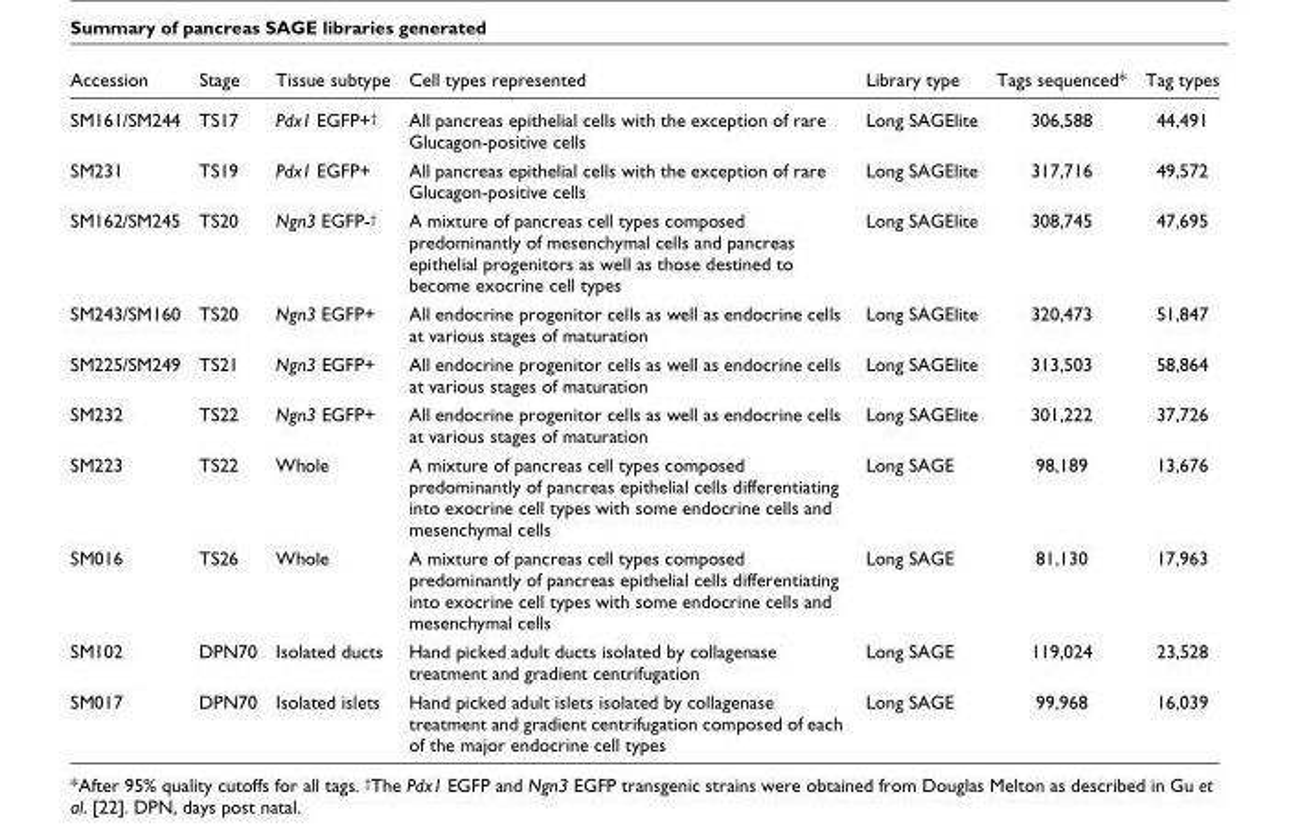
<table><thead><tr><td>Accession</td><td>Stage</td><td>Tissue subtype</td><td>Cell types represented</td><td>Library type</td><td>Tags sequenced*</td><td>Tag types</td></tr></thead><tbody><tr><td>SM161/SM244</td><td>TS17</td><td>Pdx1 EGFP+<sup>†</sup></td><td>All pancreas epithelial cells with the exception of rare Glucagon-positive cells</td><td>Long SAGElite</td><td>306,588</td><td>44,491</td></tr><tr><td>SM231</td><td>TS19</td><td>Pdx1 EGFP+</td><td>All pancreas epithelial cells with the exception of rare Glucagon-positive cells</td><td>Long SAGElite</td><td>317,716</td><td>49,572</td></tr><tr><td>SM162/SM245</td><td>TS20</td><td>Ngn3 EGFP-<sup>†</sup></td><td>A mixture of pancreas cell types composed predominantly of mesenchymal cells and pancreas epithelial progenitors as well as those destined to become exocrine cell types</td><td>Long SAGElite</td><td>308,745</td><td>47,695</td></tr><tr><td>SM243/SM160</td><td>TS20</td><td>Ngn3 EGFP+</td><td>All endocrine progenitor cells as well as endocrine cells at various stages of maturation</td><td>Long SAGElite</td><td>320,473</td><td>51,847</td></tr><tr><td>SM225/SM249</td><td>TS21</td><td>Ngn3 EGFP+</td><td>All endocrine progenitor cells as well as endocrine cells at various stages of maturation</td><td>Long SAGElite</td><td>313,503</td><td>58,864</td></tr><tr><td>SM232</td><td>TS22</td><td>Ngn3 EGFP+</td><td>All endocrine progenitor cells as well as endocrine cells at various stages of maturation</td><td>Long SAGElite</td><td>301,222</td><td>37,726</td></tr><tr><td>SM223</td><td>TS22</td><td>Whole</td><td>A mixture of pancreas cell types composed predominantly of pancreas epithelial cells differentiating into exocrine cell types with some endocrine cells and mesenchymal cells</td><td>Long SAGE</td><td>98,189</td><td>13,676</td></tr><tr><td>SM016</td><td>TS26</td><td>Whole</td><td>A mixture of pancreas cell types composed predominantly of pancreas epithelial cells differentiating into exocrine cell types with some endocrine cells and mesenchymal cells</td><td>Long SAGE</td><td>81,130</td><td>17,963</td></tr><tr><td>SM102</td><td>DPN70</td><td>Isolated ducts</td><td>Hand picked adult ducts isolated by collagenase treatment and gradient centrifugation</td><td>Long SAGE</td><td>119,024</td><td>23,528</td></tr><tr><td>SM017</td><td>DPN70</td><td>Isolated islets</td><td>Hand picked adult islets isolated by collagenase treatment and gradient centrifugation composed of each of the major endocrine cell types</td><td>Long SAGE</td><td>99,968</td><td>16,039</td></tr></tbody></table>